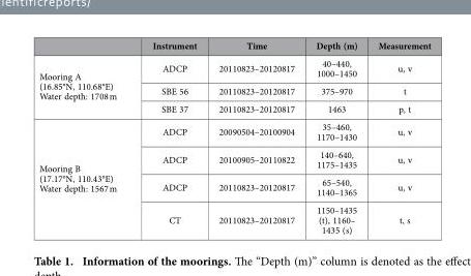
<table><thead><tr><td></td><td>Instrument</td><td>Time</td><td>Depth (m)</td><td>Measurement</td></tr></thead><tbody><tr><td rowspan="3">Mooring A (16.85°N, 110.68°E) Water depth: 1708 m</td><td>ADCP</td><td>20110823–20120817</td><td>40–440, 1000–1450</td><td>u, v</td></tr><tr><td>SBE 56</td><td>20110823–20120817</td><td>375–970</td><td>t</td></tr><tr><td>SBE 37</td><td>20110823–20120817</td><td>1463</td><td>p, t</td></tr><tr><td rowspan="4">Mooring B (17.17°N, 110.43°E) Water depth: 1567 m</td><td>ADCP</td><td>20090504–20100904</td><td>35–460, 1170–1430</td><td>u, v</td></tr><tr><td>ADCP</td><td>20100905–20110822</td><td>140–640, 1175–1435</td><td>u, v</td></tr><tr><td>ADCP</td><td>20110823–20120817</td><td>65–540, 1140–1365</td><td>u, v</td></tr><tr><td>CT</td><td>20110823–20120817</td><td>1150–1435 (t), 1160– 1435 (s)</td><td>t, s</td></tr></tbody></table>